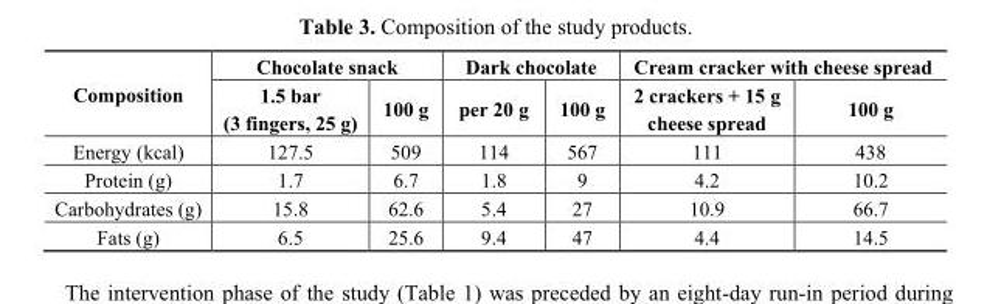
<table><thead><tr><td rowspan="2">Composition</td><td colspan="2">Chocolate snack</td><td colspan="2">Dark chocolate</td><td colspan="2">Cream cracker with cheese spread</td></tr><tr><td>1.5 bar (3 fingers, 25 g)</td><td>100 g</td><td>per 20 g</td><td>100 g</td><td>2 crackers + 15 g cheese spread</td><td>100 g</td></tr></thead><tbody><tr><td>Energy (kcal)</td><td>127.5</td><td>509</td><td>114</td><td>567</td><td>111</td><td>438</td></tr><tr><td>Protein (g)</td><td>1.7</td><td>6.7</td><td>1.8</td><td>9</td><td>4.2</td><td>10.2</td></tr><tr><td>Carbohydrates (g)</td><td>15.8</td><td>62.6</td><td>5.4</td><td>27</td><td>10.9</td><td>66.7</td></tr><tr><td>Fats (g)</td><td>6.5</td><td>25.6</td><td>9.4</td><td>47</td><td>4.4</td><td>14.5</td></tr></tbody></table>